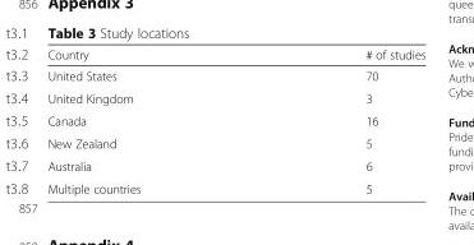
<table><thead><tr><td>Country</td><td># of studies</td></tr></thead><tbody><tr><td>United States</td><td>70</td></tr><tr><td>United Kingdom</td><td>3</td></tr><tr><td>Canada</td><td>16</td></tr><tr><td>New Zealand</td><td>5</td></tr><tr><td>Australia</td><td>6</td></tr><tr><td>Multiple countries</td><td>5</td></tr></tbody></table>